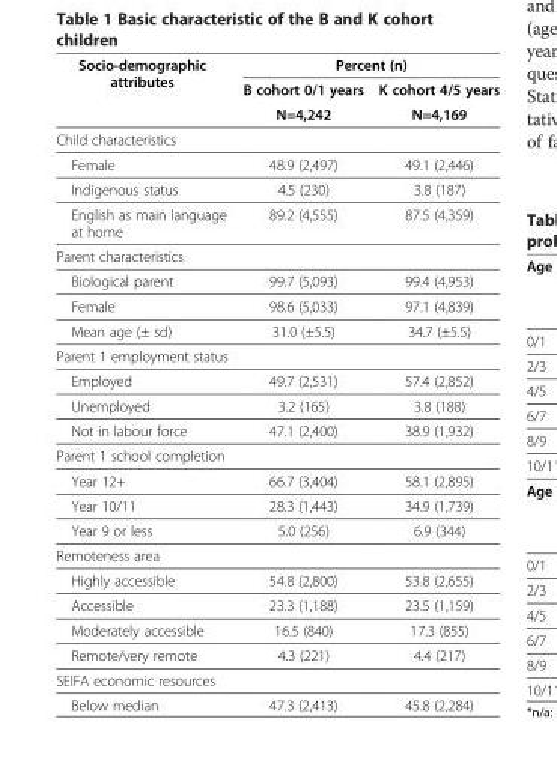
<table><thead><tr><td rowspan="3">Socio-demographic attributes</td><td colspan="2">Percent (n)</td></tr><tr><td rowspan="2">B cohort 0/1 years N=4,242</td><td rowspan="2">K cohort 4/5 years N=4,169</td></tr><tr></tr></thead><tbody><tr><td colspan="3">Child characteristics</td></tr><tr><td>Female</td><td>48.9 (2,497)</td><td>49.1 (2,446)</td></tr><tr><td>Indigenous status</td><td>4.5 (230)</td><td>3.8 (187)</td></tr><tr><td>English as main language at home</td><td>89.2 (4,555)</td><td>87.5 (4,359)</td></tr><tr><td colspan="3">Parent characteristics</td></tr><tr><td>Biological parent</td><td>99.7 (5,093)</td><td>99.4 (4,953)</td></tr><tr><td>Female</td><td>98.6 (5,033)</td><td>97.1 (4,839)</td></tr><tr><td>Mean age (± sd)</td><td>31.0 (±5.5)</td><td>34.7 (±5.5)</td></tr><tr><td colspan="3">Parent 1 employment status</td></tr><tr><td>Employed</td><td>49.7 (2,531)</td><td>57.4 (2,852)</td></tr><tr><td>Unemployed</td><td>3.2 (165)</td><td>3.8 (188)</td></tr><tr><td>Not in labour force</td><td>47.1 (2,400)</td><td>38.9 (1,932)</td></tr><tr><td colspan="3">Parent 1 school completion</td></tr><tr><td>Year 12+</td><td>66.7 (3,404)</td><td>58.1 (2,895)</td></tr><tr><td>Year 10/11</td><td>28.3 (1,443)</td><td>34.9 (1,739)</td></tr><tr><td>Year 9 or less</td><td>5.0 (256)</td><td>6.9 (344)</td></tr><tr><td colspan="3">Remoteness area</td></tr><tr><td>Highly accessible</td><td>54.8 (2,800)</td><td>53.8 (2,655)</td></tr><tr><td>Accessible</td><td>23.3 (1,188)</td><td>23.5 (1,159)</td></tr><tr><td>Moderately accessible</td><td>16.5 (840)</td><td>17.3 (855)</td></tr><tr><td>Remote/very remote</td><td>4.3 (221)</td><td>4.4 (217)</td></tr><tr><td colspan="3">SEIFA economic resources</td></tr><tr><td>Below median</td><td>47.3 (2,413)</td><td>45.8 (2,284)</td></tr></tbody></table>